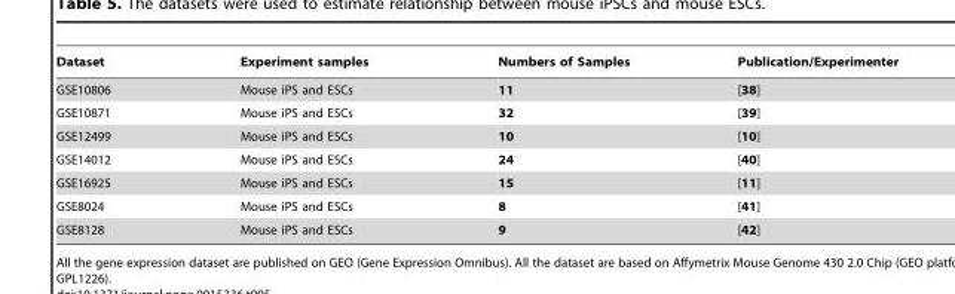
<table><thead><tr><td>Dataset</td><td>Experiment samples</td><td>Numbers of Samples</td><td>Publication/Experimenter</td></tr></thead><tbody><tr><td>GSE10806</td><td>Mouse iPS and ESCs</td><td>11</td><td>[38]</td></tr><tr><td>GSE10871</td><td>Mouse iPS and ESCs</td><td>32</td><td>[39]</td></tr><tr><td>GSE12499</td><td>Mouse iPS and ESCs</td><td>10</td><td>[10]</td></tr><tr><td>GSE14012</td><td>Mouse iPS and ESCs</td><td>24</td><td>[40]</td></tr><tr><td>GSE16925</td><td>Mouse iPS and ESCs</td><td>15</td><td>[11]</td></tr><tr><td>GSE8024</td><td>Mouse iPS and ESCs</td><td>8</td><td>[41]</td></tr><tr><td>GSE8128</td><td>Mouse iPS and ESCs</td><td>9</td><td>[42]</td></tr></tbody></table>